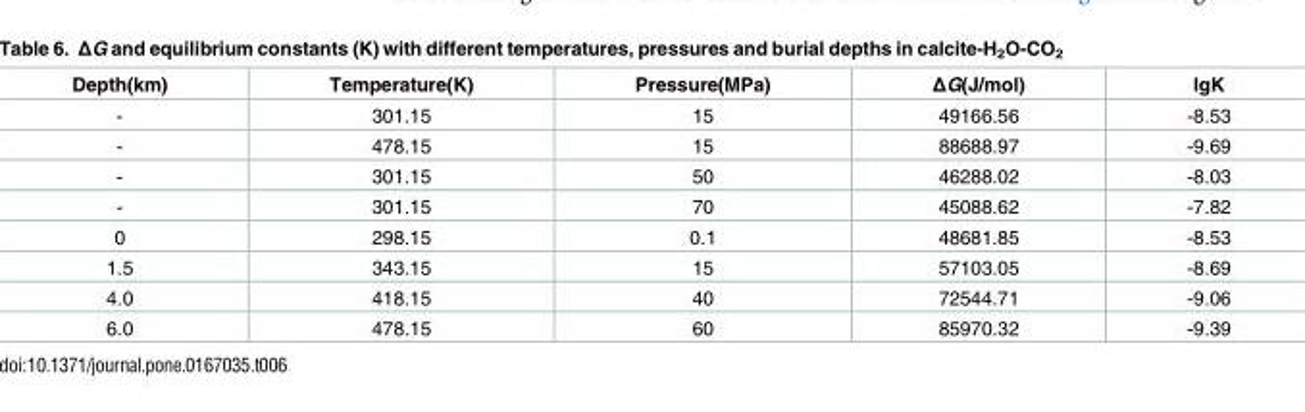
<table><thead><tr><td>Depth(km)</td><td>Temperature(K)</td><td>Pressure(MPa)</td><td>ΔG(J/mol)</td><td>lgK</td></tr></thead><tbody><tr><td>-</td><td>301.15</td><td>15</td><td>49166.56</td><td>-8.53</td></tr><tr><td>-</td><td>478.15</td><td>15</td><td>88688.97</td><td>-9.69</td></tr><tr><td>-</td><td>301.15</td><td>50</td><td>46288.02</td><td>-8.03</td></tr><tr><td>-</td><td>301.15</td><td>70</td><td>45088.62</td><td>-7.82</td></tr><tr><td>0</td><td>298.15</td><td>0.1</td><td>48681.85</td><td>-8.53</td></tr><tr><td>1.5</td><td>343.15</td><td>15</td><td>57103.05</td><td>-8.69</td></tr><tr><td>4.0</td><td>418.15</td><td>40</td><td>72544.71</td><td>-9.06</td></tr><tr><td>6.0</td><td>478.15</td><td>60</td><td>85970.32</td><td>-9.39</td></tr></tbody></table>